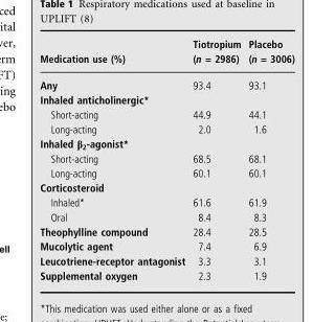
<table><thead><tr><td>Medication use (%)</td><td>Tiotropium (n = 2986)</td><td>Placebo (n = 3006)</td></tr></thead><tbody><tr><td>Any</td><td>93.4</td><td>93.1</td></tr><tr><td colspan="3">Inhaled anticholinergic*</td></tr><tr><td>Short-acting</td><td>44.9</td><td>44.1</td></tr><tr><td>Long-acting</td><td>2.0</td><td>1.6</td></tr><tr><td colspan="3">Inhaled β<sub>2</sub>-agonist*</td></tr><tr><td>Short-acting</td><td>68.5</td><td>68.1</td></tr><tr><td>Long-acting</td><td>60.1</td><td>60.1</td></tr><tr><td colspan="3">Corticosteroid</td></tr><tr><td>Inhaled*</td><td>61.6</td><td>61.9</td></tr><tr><td>Oral</td><td>8.4</td><td>8.3</td></tr><tr><td>Theophylline compound</td><td>28.4</td><td>28.5</td></tr><tr><td>Mucolytic agent</td><td>7.4</td><td>6.9</td></tr><tr><td>Leucotriene-receptor antagonist</td><td>3.3</td><td>3.1</td></tr><tr><td>Supplemental oxygen</td><td>2.3</td><td>1.9</td></tr></tbody></table>